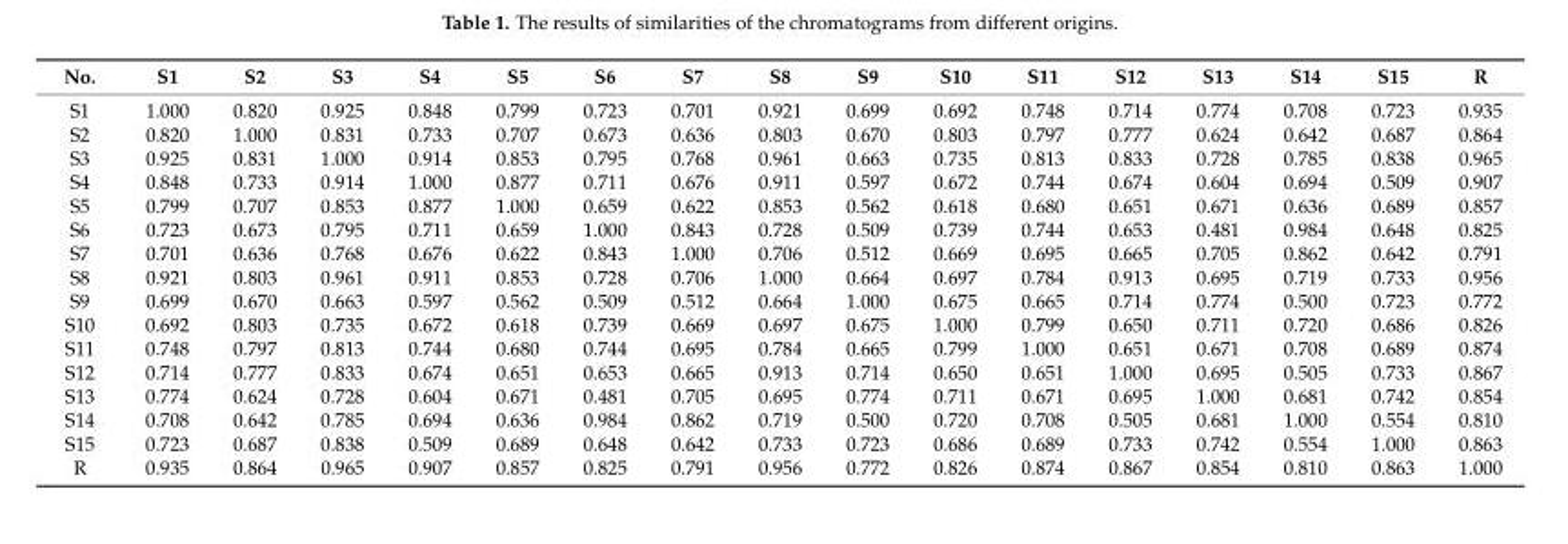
<table><thead><tr><td>No.</td><td>S1</td><td>S2</td><td>S3</td><td>S4</td><td>S5</td><td>S6</td><td>S7</td><td>S8</td><td>S9</td><td>S10</td><td>S11</td><td>S12</td><td>S13</td><td>S14</td><td>S15</td><td>R</td></tr></thead><tbody><tr><td>S1</td><td>1.000</td><td>0.820</td><td>0.925</td><td>0.848</td><td>0.799</td><td>0.723</td><td>0.701</td><td>0.921</td><td>0.699</td><td>0.692</td><td>0.748</td><td>0.714</td><td>0.774</td><td>0.708</td><td>0.723</td><td>0.935</td></tr><tr><td>S2</td><td>0.820</td><td>1.000</td><td>0.831</td><td>0.733</td><td>0.707</td><td>0.673</td><td>0.636</td><td>0.803</td><td>0.670</td><td>0.803</td><td>0.797</td><td>0.777</td><td>0.624</td><td>0.642</td><td>0.687</td><td>0.864</td></tr><tr><td>S3</td><td>0.925</td><td>0.831</td><td>1.000</td><td>0.914</td><td>0.853</td><td>0.795</td><td>0.768</td><td>0.961</td><td>0.663</td><td>0.735</td><td>0.813</td><td>0.833</td><td>0.728</td><td>0.785</td><td>0.838</td><td>0.965</td></tr><tr><td>S4</td><td>0.848</td><td>0.733</td><td>0.914</td><td>1.000</td><td>0.877</td><td>0.711</td><td>0.676</td><td>0.911</td><td>0.597</td><td>0.672</td><td>0.744</td><td>0.674</td><td>0.604</td><td>0.694</td><td>0.509</td><td>0.907</td></tr><tr><td>S5</td><td>0.799</td><td>0.707</td><td>0.853</td><td>0.877</td><td>1.000</td><td>0.659</td><td>0.622</td><td>0.853</td><td>0.562</td><td>0.618</td><td>0.680</td><td>0.651</td><td>0.671</td><td>0.636</td><td>0.689</td><td>0.857</td></tr><tr><td>S6</td><td>0.723</td><td>0.673</td><td>0.795</td><td>0.711</td><td>0.659</td><td>1.000</td><td>0.843</td><td>0.728</td><td>0.509</td><td>0.739</td><td>0.744</td><td>0.653</td><td>0.481</td><td>0.984</td><td>0.648</td><td>0.825</td></tr><tr><td>S7</td><td>0.701</td><td>0.636</td><td>0.768</td><td>0.676</td><td>0.622</td><td>0.843</td><td>1.000</td><td>0.706</td><td>0.512</td><td>0.669</td><td>0.695</td><td>0.665</td><td>0.705</td><td>0.862</td><td>0.642</td><td>0.791</td></tr><tr><td>S8</td><td>0.921</td><td>0.803</td><td>0.961</td><td>0.911</td><td>0.853</td><td>0.728</td><td>0.706</td><td>1.000</td><td>0.664</td><td>0.697</td><td>0.784</td><td>0.913</td><td>0.695</td><td>0.719</td><td>0.733</td><td>0.956</td></tr><tr><td>S9</td><td>0.699</td><td>0.670</td><td>0.663</td><td>0.597</td><td>0.562</td><td>0.509</td><td>0.512</td><td>0.664</td><td>1.000</td><td>0.675</td><td>0.665</td><td>0.714</td><td>0.774</td><td>0.500</td><td>0.723</td><td>0.772</td></tr><tr><td>S10</td><td>0.692</td><td>0.803</td><td>0.735</td><td>0.672</td><td>0.618</td><td>0.739</td><td>0.669</td><td>0.697</td><td>0.675</td><td>1.000</td><td>0.799</td><td>0.650</td><td>0.711</td><td>0.720</td><td>0.686</td><td>0.826</td></tr><tr><td>S11</td><td>0.748</td><td>0.797</td><td>0.813</td><td>0.744</td><td>0.680</td><td>0.744</td><td>0.695</td><td>0.784</td><td>0.665</td><td>0.799</td><td>1.000</td><td>0.651</td><td>0.671</td><td>0.708</td><td>0.689</td><td>0.874</td></tr><tr><td>S12</td><td>0.714</td><td>0.777</td><td>0.833</td><td>0.674</td><td>0.651</td><td>0.653</td><td>0.665</td><td>0.913</td><td>0.714</td><td>0.650</td><td>0.651</td><td>1.000</td><td>0.695</td><td>0.505</td><td>0.733</td><td>0.867</td></tr><tr><td>S13</td><td>0.774</td><td>0.624</td><td>0.728</td><td>0.604</td><td>0.671</td><td>0.481</td><td>0.705</td><td>0.695</td><td>0.774</td><td>0.711</td><td>0.671</td><td>0.695</td><td>1.000</td><td>0.681</td><td>0.742</td><td>0.854</td></tr><tr><td>S14</td><td>0.708</td><td>0.642</td><td>0.785</td><td>0.694</td><td>0.636</td><td>0.984</td><td>0.862</td><td>0.719</td><td>0.500</td><td>0.720</td><td>0.708</td><td>0.505</td><td>0.681</td><td>1.000</td><td>0.554</td><td>0.810</td></tr><tr><td>S15</td><td>0.723</td><td>0.687</td><td>0.838</td><td>0.509</td><td>0.689</td><td>0.648</td><td>0.642</td><td>0.733</td><td>0.723</td><td>0.686</td><td>0.689</td><td>0.733</td><td>0.742</td><td>0.554</td><td>1.000</td><td>0.863</td></tr><tr><td>R</td><td>0.935</td><td>0.864</td><td>0.965</td><td>0.907</td><td>0.857</td><td>0.825</td><td>0.791</td><td>0.956</td><td>0.772</td><td>0.826</td><td>0.874</td><td>0.867</td><td>0.854</td><td>0.810</td><td>0.863</td><td>1.000</td></tr></tbody></table>